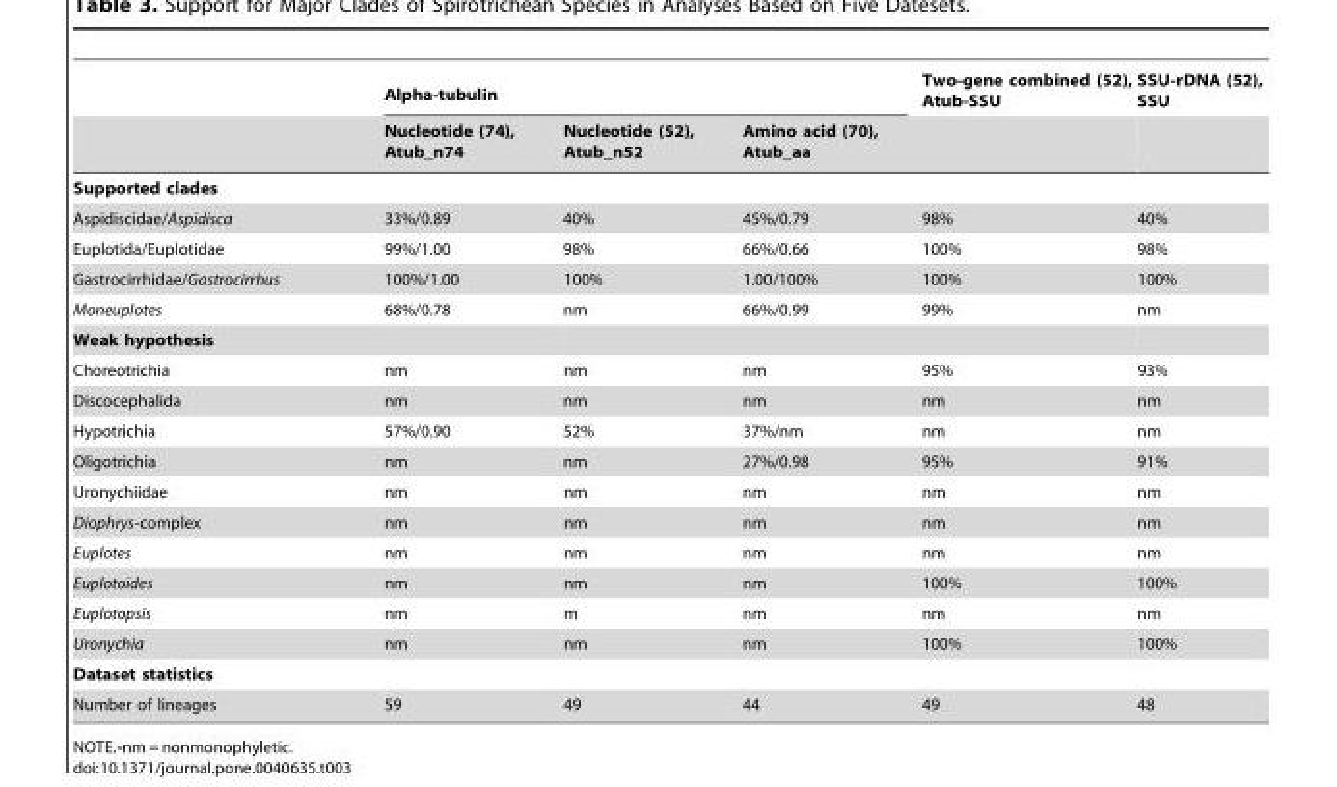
<table><thead><tr><td rowspan="2"></td><td colspan="3">Alpha-tubulin</td><td rowspan="2">Two-gene combined (52), Atub-SSU</td><td rowspan="2">SSU-rDNA (52), SSU</td></tr><tr><td>Nucleotide (74), Atub_n74</td><td>Nucleotide (52), Atub_n52</td><td>Amino acid (70), Atub_aa</td></tr></thead><tbody><tr><td colspan="6">Supported clades</td></tr><tr><td>Aspidiscidae/Aspidisca</td><td>33%/0.89</td><td>40%</td><td>45%/0.79</td><td>98%</td><td>40%</td></tr><tr><td>Euplotida/Euplotidae</td><td>99%/1.00</td><td>98%</td><td>66%/0.66</td><td>100%</td><td>98%</td></tr><tr><td>Gastrocirrhidae/Gastrocirrhus</td><td>100%/1.00</td><td>100%</td><td>1.00/100%</td><td>100%</td><td>100%</td></tr><tr><td>Moneuplotes</td><td>68%/0.78</td><td>nm</td><td>66%/0.99</td><td>99%</td><td>nm</td></tr><tr><td colspan="6">Weak hypothesis</td></tr><tr><td>Choreotrichia</td><td>nm</td><td>nm</td><td>nm</td><td>95%</td><td>93%</td></tr><tr><td>Discocephalida</td><td>nm</td><td>nm</td><td>nm</td><td>nm</td><td>nm</td></tr><tr><td>Hypotrichia</td><td>57%/0.90</td><td>52%</td><td>37%/nm</td><td>nm</td><td>nm</td></tr><tr><td>Oligotrichia</td><td>nm</td><td>nm</td><td>27%/0.98</td><td>95%</td><td>91%</td></tr><tr><td>Uronychiidae</td><td>nm</td><td>nm</td><td>nm</td><td>nm</td><td>nm</td></tr><tr><td>Diophrys-complex</td><td>nm</td><td>nm</td><td>nm</td><td>nm</td><td>nm</td></tr><tr><td>Euplotes</td><td>nm</td><td>nm</td><td>nm</td><td>nm</td><td>nm</td></tr><tr><td>Euplotoides</td><td>nm</td><td>nm</td><td>nm</td><td>100%</td><td>100%</td></tr><tr><td>Euplotopsis</td><td>nm</td><td>m</td><td>nm</td><td>nm</td><td>nm</td></tr><tr><td>Uronychia</td><td>nm</td><td>nm</td><td>nm</td><td>100%</td><td>100%</td></tr><tr><td colspan="6">Dataset statistics</td></tr><tr><td>Number of lineages</td><td>59</td><td>49</td><td>44</td><td>49</td><td>48</td></tr></tbody></table>